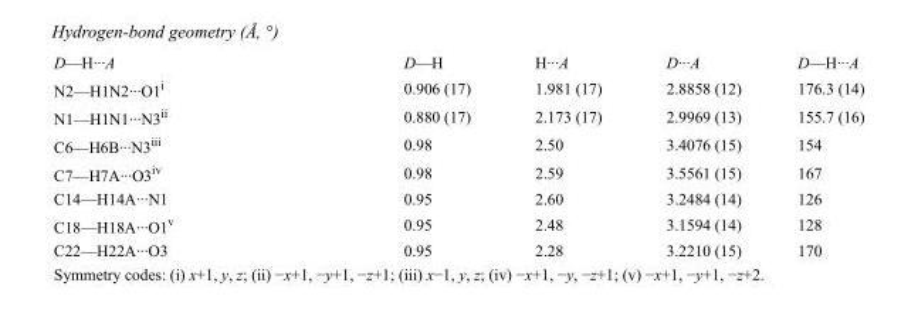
<table><tbody><tr><td>D—H···A</td><td>D—H</td><td>H···A</td><td>D···A</td><td>D—H···A</td></tr><tr><td>N2—H1N2···O1<sup>i</sup></td><td>0.906 (17)</td><td>1.981 (17)</td><td>2.8858 (12)</td><td>176.3 (14)</td></tr><tr><td>N1—H1N1···N3<sup>ii</sup></td><td>0.880 (17)</td><td>2.173 (17)</td><td>2.9969 (13)</td><td>155.7 (16)</td></tr><tr><td>C6—H6B···N3<sup>iii</sup></td><td>0.98</td><td>2.50</td><td>3.4076 (15)</td><td>154</td></tr><tr><td>C7—H7A···O3<sup>iv</sup></td><td>0.98</td><td>2.59</td><td>3.5561 (15)</td><td>167</td></tr><tr><td>C14—H14A···N1</td><td>0.95</td><td>2.60</td><td>3.2484 (14)</td><td>126</td></tr><tr><td>C18—H18A···O1<sup>v</sup></td><td>0.95</td><td>2.48</td><td>3.1594 (14)</td><td>128</td></tr><tr><td>C22—H22A···O3</td><td>0.95</td><td>2.28</td><td>3.2210 (15)</td><td>170</td></tr></tbody></table>